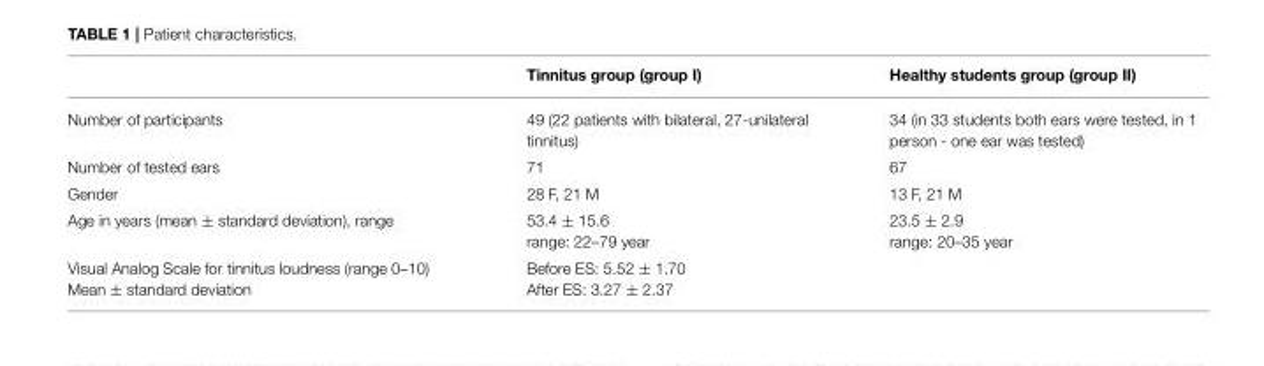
<table><thead><tr><td></td><td>Tinnitus group (group I)</td><td>Healthy students group (group II)</td></tr></thead><tbody><tr><td>Number of participants</td><td>49 (22 patients with bilateral, 27-unilateral tinnitus)</td><td>34 (in 33 students both ears were tested, in 1 person - one ear was tested)</td></tr><tr><td>Number of tested ears</td><td>71</td><td>67</td></tr><tr><td>Gender</td><td>28 F, 21 M</td><td>13 F, 21 M</td></tr><tr><td>Age in years (mean ± standard deviation), range</td><td>53.4 ± 15.6 range: 22–79 year</td><td>23.5 ± 2.9 range: 20–35 year</td></tr><tr><td>Visual Analog Scale for tinnitus loudness (range 0–10) Mean ± standard deviation</td><td>Before ES: 5.52 ± 1.70 After ES: 3.27 ± 2.37</td><td></td></tr></tbody></table>